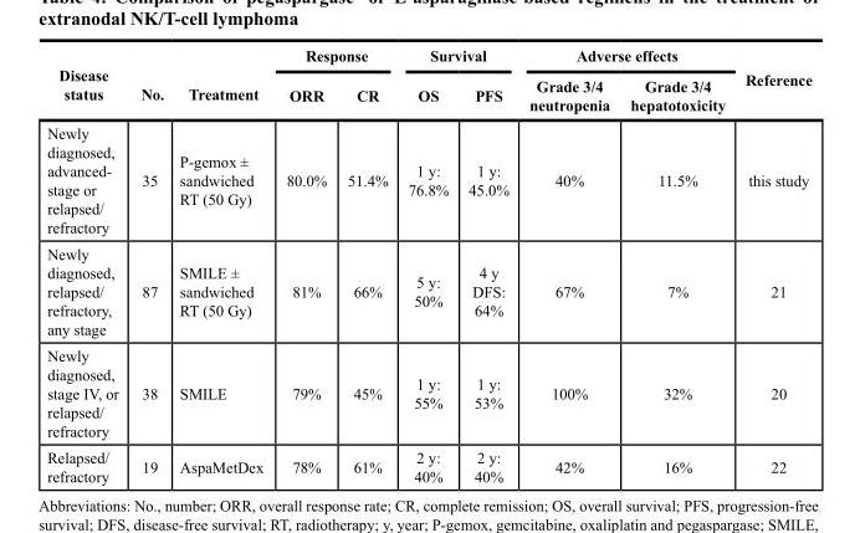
<table><thead><tr><td rowspan="2">Disease status</td><td rowspan="2">No.</td><td rowspan="2">Treatment</td><td colspan="2">Response</td><td colspan="2">Survival</td><td colspan="2">Adverse effects</td><td rowspan="2">Reference</td></tr><tr><td>ORR</td><td>CR</td><td>OS</td><td>PFS</td><td>Grade 3/4 neutropenia</td><td>Grade 3/4 hepatotoxicity</td></tr></thead><tbody><tr><td>Newly diagnosed, advanced- stage or relapsed/ refractory</td><td>35</td><td>P-gemox ± sandwiched RT (50 Gy)</td><td>80.0%</td><td>51.4%</td><td>1 y: 76.8%</td><td>1 y: 45.0%</td><td>40%</td><td>11.5%</td><td>this study</td></tr><tr><td>Newly diagnosed, relapsed/ refractory, any stage</td><td>87</td><td>SMILE ± sandwiched RT (50 Gy)</td><td>81%</td><td>66%</td><td>5 y: 50%</td><td>4 y DFS: 64%</td><td>67%</td><td>7%</td><td>21</td></tr><tr><td>Newly diagnosed, stage IV, or relapsed/ refractory</td><td>38</td><td>SMILE</td><td>79%</td><td>45%</td><td>1 y: 55%</td><td>1 y: 53%</td><td>100%</td><td>32%</td><td>20</td></tr><tr><td>Relapsed/ refractory</td><td>19</td><td>AspaMetDex</td><td>78%</td><td>61%</td><td>2 y: 40%</td><td>2 y: 40%</td><td>42%</td><td>16%</td><td>22</td></tr></tbody></table>